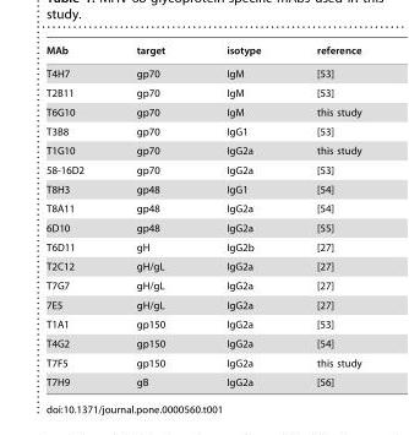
<table><thead><tr><td>MAb</td><td>target</td><td>isotype</td><td>reference</td></tr></thead><tbody><tr><td>T4H7</td><td>gp70</td><td>IgM</td><td>[53]</td></tr><tr><td>T2B11</td><td>gp70</td><td>IgM</td><td>[53]</td></tr><tr><td>T6G10</td><td>gp70</td><td>IgM</td><td>this study</td></tr><tr><td>T3B8</td><td>gp70</td><td>IgG1</td><td>[53]</td></tr><tr><td>T1G10</td><td>gp70</td><td>IgG2a</td><td>this study</td></tr><tr><td>58-16D2</td><td>gp70</td><td>IgG2a</td><td>[53]</td></tr><tr><td>T8H3</td><td>gp48</td><td>IgG1</td><td>[54]</td></tr><tr><td>T8A11</td><td>gp48</td><td>IgG2a</td><td>[54]</td></tr><tr><td>6D10</td><td>gp48</td><td>IgG2a</td><td>[55]</td></tr><tr><td>T6D11</td><td>gH</td><td>IgG2b</td><td>[27]</td></tr><tr><td>T2C12</td><td>gH/gL</td><td>IgG2a</td><td>[27]</td></tr><tr><td>T7G7</td><td>gH/gL</td><td>IgG2a</td><td>[27]</td></tr><tr><td>7E5</td><td>gH/gL</td><td>IgG2a</td><td>[27]</td></tr><tr><td>T1A1</td><td>gp150</td><td>IgG2a</td><td>[53]</td></tr><tr><td>T4G2</td><td>gp150</td><td>IgG2a</td><td>[54]</td></tr><tr><td>T7F5</td><td>gp150</td><td>IgG2a</td><td>this study</td></tr><tr><td>T7H9</td><td>gB</td><td>IgG2a</td><td>[56]</td></tr></tbody></table>